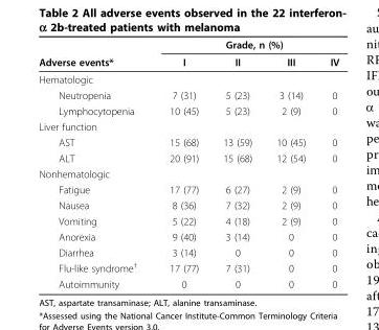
<table><thead><tr><td rowspan="2">Adverse events*</td><td colspan="4">Grade, n (%)</td></tr><tr><td>I</td><td>II</td><td>III</td><td>IV</td></tr></thead><tbody><tr><td colspan="5">Hematologic</td></tr><tr><td>Neutropenia</td><td>7 (31)</td><td>5 (23)</td><td>3 (14)</td><td>0</td></tr><tr><td>Lymphocytopenia</td><td>10 (45)</td><td>5 (23)</td><td>2 (9)</td><td>0</td></tr><tr><td colspan="5">Liver function</td></tr><tr><td>AST</td><td>15 (68)</td><td>13 (59)</td><td>10 (45)</td><td>0</td></tr><tr><td>ALT</td><td>20 (91)</td><td>15 (68)</td><td>12 (54)</td><td>0</td></tr><tr><td colspan="5">Nonhematologic</td></tr><tr><td>Fatigue</td><td>17 (77)</td><td>6 (27)</td><td>2 (9)</td><td>0</td></tr><tr><td>Nausea</td><td>8 (36)</td><td>7 (32)</td><td>2 (9)</td><td>0</td></tr><tr><td>Vomiting</td><td>5 (22)</td><td>4 (18)</td><td>2 (9)</td><td>0</td></tr><tr><td>Anorexia</td><td>9 (40)</td><td>3 (14)</td><td>0</td><td>0</td></tr><tr><td>Diarrhea</td><td>3 (14)</td><td>0</td><td>0</td><td>0</td></tr><tr><td>Flu-like syndrome<sup>†</sup></td><td>17 (77)</td><td>7 (31)</td><td>0</td><td>0</td></tr><tr><td>Autoimmunity</td><td>0</td><td>0</td><td>0</td><td>0</td></tr></tbody></table>